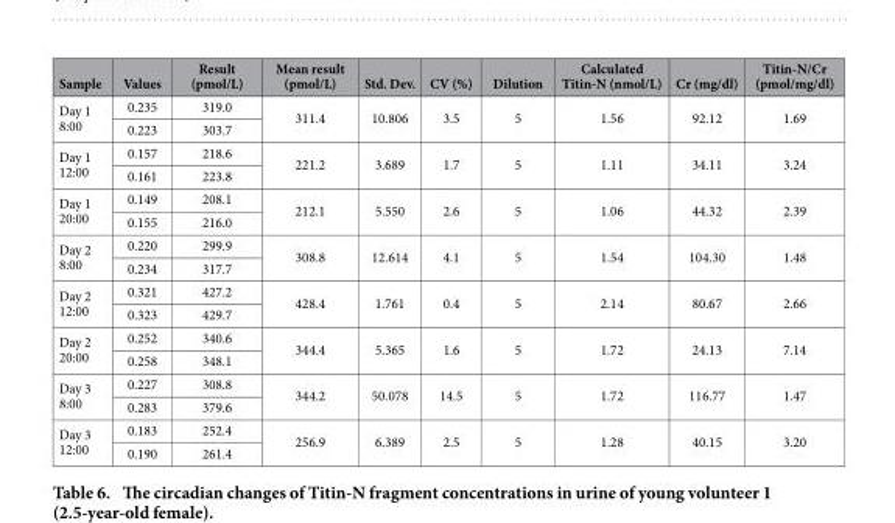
<table><thead><tr><td>Sample</td><td>Values</td><td>Result (pmol/L)</td><td>Mean result (pmol/L)</td><td>Std. Dev.</td><td>CV (%)</td><td>Dilution</td><td>Calculated Titin-N (nmol/L)</td><td>Cr (mg/dl)</td><td>Titin-N/Cr (pmol/mg/dl)</td></tr></thead><tbody><tr><td rowspan="2">Day 1 8:00</td><td>0.235</td><td>319.0</td><td rowspan="2">311.4</td><td rowspan="2">10.806</td><td rowspan="2">3.5</td><td rowspan="2">5</td><td rowspan="2">1.56</td><td rowspan="2">92.12</td><td rowspan="2">1.69</td></tr><tr><td>0.223</td><td>303.7</td></tr><tr><td rowspan="2">Day 1 12:00</td><td>0.157</td><td>218.6</td><td rowspan="2">221.2</td><td rowspan="2">3.689</td><td rowspan="2">1.7</td><td rowspan="2">5</td><td rowspan="2">1.11</td><td rowspan="2">34.11</td><td rowspan="2">3.24</td></tr><tr><td>0.161</td><td>223.8</td></tr><tr><td rowspan="2">Day 1 20:00</td><td>0.149</td><td>208.1</td><td rowspan="2">212.1</td><td rowspan="2">5.550</td><td rowspan="2">2.6</td><td rowspan="2">5</td><td rowspan="2">1.06</td><td rowspan="2">44.32</td><td rowspan="2">2.39</td></tr><tr><td>0.155</td><td>216.0</td></tr><tr><td rowspan="2">Day 2 8:00</td><td>0.220</td><td>299.9</td><td rowspan="2">308.8</td><td rowspan="2">12.614</td><td rowspan="2">4.1</td><td rowspan="2">5</td><td rowspan="2">1.54</td><td rowspan="2">104.30</td><td rowspan="2">1.48</td></tr><tr><td>0.234</td><td>317.7</td></tr><tr><td rowspan="2">Day 2 12:00</td><td>0.321</td><td>427.2</td><td rowspan="2">428.4</td><td rowspan="2">1.761</td><td rowspan="2">0.4</td><td rowspan="2">5</td><td rowspan="2">2.14</td><td rowspan="2">80.67</td><td rowspan="2">2.66</td></tr><tr><td>0.323</td><td>429.7</td></tr><tr><td rowspan="2">Day 2 20:00</td><td>0.252</td><td>340.6</td><td rowspan="2">344.4</td><td rowspan="2">5.365</td><td rowspan="2">1.6</td><td rowspan="2">5</td><td rowspan="2">1.72</td><td rowspan="2">24.13</td><td rowspan="2">7.14</td></tr><tr><td>0.258</td><td>348.1</td></tr><tr><td rowspan="2">Day 3 8:00</td><td>0.227</td><td>308.8</td><td rowspan="2">344.2</td><td rowspan="2">50.078</td><td rowspan="2">14.5</td><td rowspan="2">5</td><td rowspan="2">1.72</td><td rowspan="2">116.77</td><td rowspan="2">1.47</td></tr><tr><td>0.283</td><td>379.6</td></tr><tr><td rowspan="2">Day 3 12:00</td><td>0.183</td><td>252.4</td><td rowspan="2">256.9</td><td rowspan="2">6.389</td><td rowspan="2">2.5</td><td rowspan="2">5</td><td rowspan="2">1.28</td><td rowspan="2">40.15</td><td rowspan="2">3.20</td></tr><tr><td>0.190</td><td>261.4</td></tr></tbody></table>